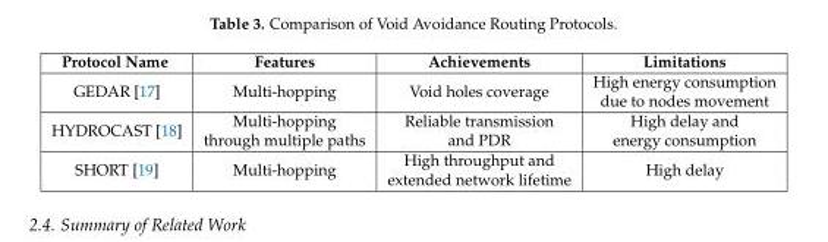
<table><thead><tr><td>Protocol Name</td><td>Features</td><td>Achievements</td><td>Limitations</td></tr></thead><tbody><tr><td>GEDAR [17]</td><td>Multi-hopping</td><td>Void holes coverage</td><td>High energy consumption due to nodes movement</td></tr><tr><td>HYDROCAST [18]</td><td>Multi-hopping through multiple paths</td><td>Reliable transmission and PDR</td><td>High delay and energy consumption</td></tr><tr><td>SHORT [19]</td><td>Multi-hopping</td><td>High throughput and extended network lifetime</td><td>High delay</td></tr></tbody></table>